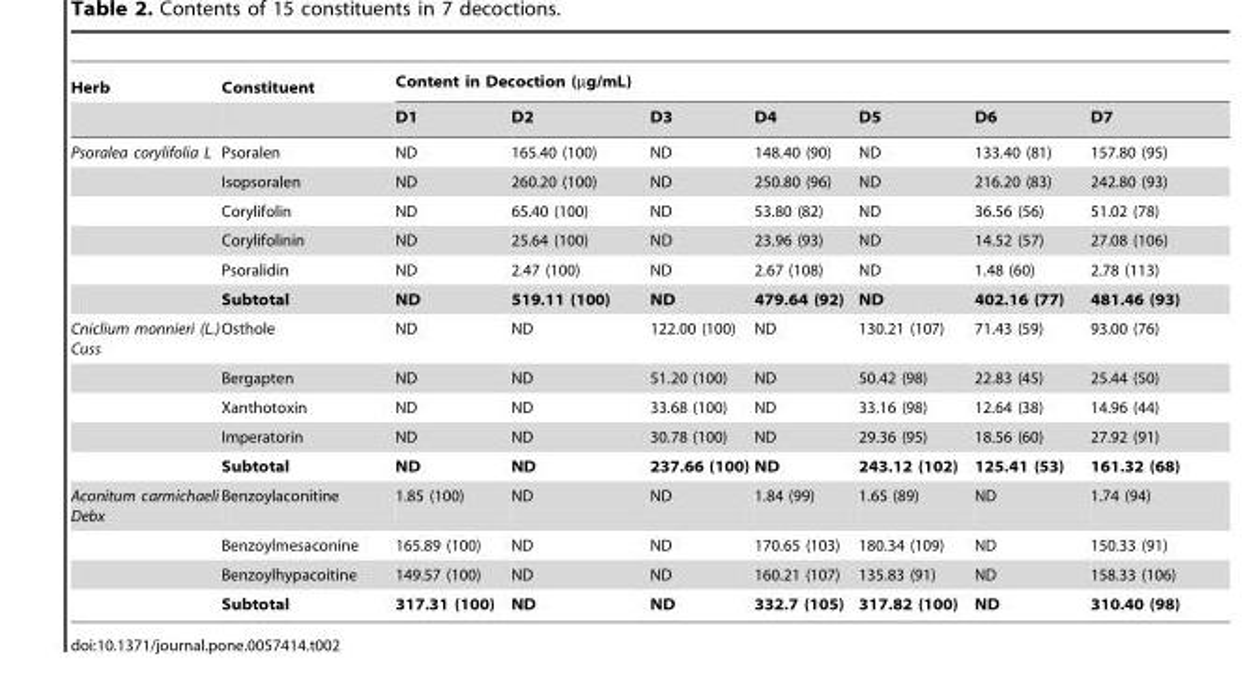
<table><thead><tr><td rowspan="2">Herb</td><td rowspan="2">Constituent</td><td colspan="7">Content in Decoction (µg/mL)</td></tr><tr><td>D1</td><td>D2</td><td>D3</td><td>D4</td><td>D5</td><td>D6</td><td>D7</td></tr></thead><tbody><tr><td rowspan="6">Psoralea corylifolia L</td><td>Psoralen</td><td>ND</td><td>165.40 (100)</td><td>ND</td><td>148.40 (90)</td><td>ND</td><td>133.40 (81)</td><td>157.80 (95)</td></tr><tr><td>Isopsoralen</td><td>ND</td><td>260.20 (100)</td><td>ND</td><td>250.80 (96)</td><td>ND</td><td>216.20 (83)</td><td>242.80 (93)</td></tr><tr><td>Corylifolin</td><td>ND</td><td>65.40 (100)</td><td>ND</td><td>53.80 (82)</td><td>ND</td><td>36.56 (56)</td><td>51.02 (78)</td></tr><tr><td>Corylifolinin</td><td>ND</td><td>25.64 (100)</td><td>ND</td><td>23.96 (93)</td><td>ND</td><td>14.52 (57)</td><td>27.08 (106)</td></tr><tr><td>Psoralidin</td><td>ND</td><td>2.47 (100)</td><td>ND</td><td>2.67 (108)</td><td>ND</td><td>1.48 (60)</td><td>2.78 (113)</td></tr><tr><td>Subtotal</td><td>ND</td><td>519.11 (100)</td><td>ND</td><td>479.64 (92)</td><td>ND</td><td>402.16 (77)</td><td>481.46 (93)</td></tr><tr><td rowspan="5">Cniclium monnieri (L.) Cuss</td><td>Osthole</td><td>ND</td><td>ND</td><td>122.00 (100)</td><td>ND</td><td>130.21 (107)</td><td>71.43 (59)</td><td>93.00 (76)</td></tr><tr><td>Bergapten</td><td>ND</td><td>ND</td><td>51.20 (100)</td><td>ND</td><td>50.42 (98)</td><td>22.83 (45)</td><td>25.44 (50)</td></tr><tr><td>Xanthotoxin</td><td>ND</td><td>ND</td><td>33.68 (100)</td><td>ND</td><td>33.16 (98)</td><td>12.64 (38)</td><td>14.96 (44)</td></tr><tr><td>Imperatorin</td><td>ND</td><td>ND</td><td>30.78 (100)</td><td>ND</td><td>29.36 (95)</td><td>18.56 (60)</td><td>27.92 (91)</td></tr><tr><td>Subtotal</td><td>ND</td><td>ND</td><td>237.66 (100)</td><td>ND</td><td>243.12 (102)</td><td>125.41 (53)</td><td>161.32 (68)</td></tr><tr><td rowspan="4">Aconitum carmichaeli Debx</td><td>Benzoylaconitine</td><td>1.85 (100)</td><td>ND</td><td>ND</td><td>1.84 (99)</td><td>1.65 (89)</td><td>ND</td><td>1.74 (94)</td></tr><tr><td>Benzoylmesaconine</td><td>165.89 (100)</td><td>ND</td><td>ND</td><td>170.65 (103)</td><td>180.34 (109)</td><td>ND</td><td>150.33 (91)</td></tr><tr><td>Benzoylhypacoitine</td><td>149.57 (100)</td><td>ND</td><td>ND</td><td>160.21 (107)</td><td>135.83 (91)</td><td>ND</td><td>158.33 (106)</td></tr><tr><td>Subtotal</td><td>317.31 (100)</td><td>ND</td><td>ND</td><td>332.7 (105)</td><td>317.82 (100)</td><td>ND</td><td>310.40 (98)</td></tr></tbody></table>